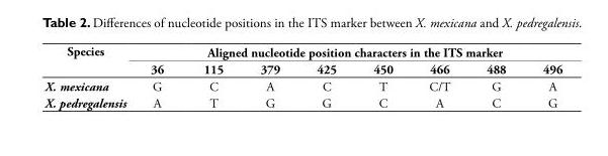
<table><thead><tr><td rowspan="2">Species</td><td colspan="8">Aligned nucleotide position characters in the ITS marker</td></tr><tr><td>36</td><td>115</td><td>379</td><td>425</td><td>450</td><td>466</td><td>488</td><td>496</td></tr></thead><tbody><tr><td>X. mexicana</td><td>G</td><td>C</td><td>A</td><td>C</td><td>T</td><td>C/T</td><td>G</td><td>A</td></tr><tr><td>X. pedregalensis</td><td>A</td><td>T</td><td>G</td><td>G</td><td>C</td><td>A</td><td>C</td><td>G</td></tr></tbody></table>